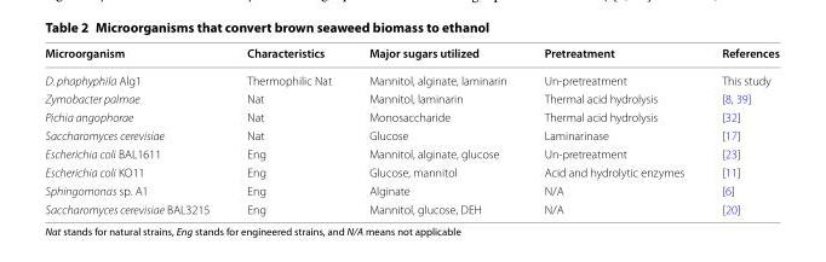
<table><thead><tr><td>Microorganism</td><td>Characteristics</td><td>Major sugars utilized</td><td>Pretreatment</td><td>References</td></tr></thead><tbody><tr><td>D. phaphyphila Alg1</td><td>Thermophilic Nat</td><td>Mannitol, alginate, laminarin</td><td>Un‑pretreatment</td><td>This study</td></tr><tr><td>Zymobacter palmae</td><td>Nat</td><td>Mannitol, laminarin</td><td>Thermal acid hydrolysis</td><td>[8, 39]</td></tr><tr><td>Pichia angophorae</td><td>Nat</td><td>Monosaccharide</td><td>Thermal acid hydrolysis</td><td>[32]</td></tr><tr><td>Saccharomyces cerevisiae</td><td>Nat</td><td>Glucose</td><td>Laminarinase</td><td>[17]</td></tr><tr><td>Escherichia coli BAL1611</td><td>Eng</td><td>Mannitol, alginate, glucose</td><td>Un‑pretreatment</td><td>[23]</td></tr><tr><td>Escherichia coli KO11</td><td>Eng</td><td>Glucose, mannitol</td><td>Acid and hydrolytic enzymes</td><td>[11]</td></tr><tr><td>Sphingomonas sp. A1</td><td>Eng</td><td>Alginate</td><td>N/A</td><td>[6]</td></tr><tr><td>Saccharomyces cerevisiae BAL3215</td><td>Eng</td><td>Mannitol, glucose, DEH</td><td>N/A</td><td>[20]</td></tr></tbody></table>